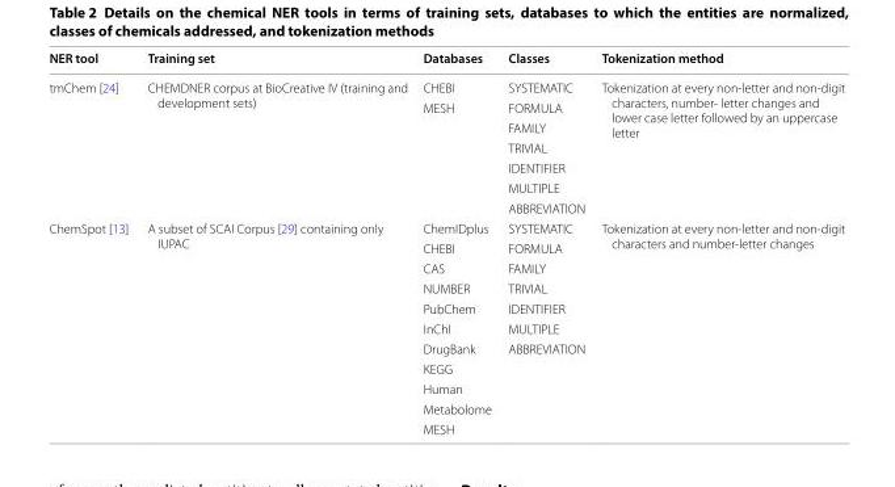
<table><thead><tr><td>NER tool</td><td>Training set</td><td>Databases</td><td>Classes</td><td>Tokenization method</td></tr></thead><tbody><tr><td rowspan="7">tmChem [24]</td><td rowspan="7">CHEMDNER corpus at BioCreative IV (training and development sets)</td><td>CHEBI</td><td>SYSTEMATIC</td><td rowspan="7">Tokenization at every non-letter and non-digit characters, number- letter changes and lower case letter followed by an uppercase letter</td></tr><tr><td>MESH</td><td>FORMULA</td></tr><tr><td></td><td>FAMILY</td></tr><tr><td></td><td>TRIVIAL</td></tr><tr><td></td><td>IDENTIFIER</td></tr><tr><td></td><td>MULTIPLE</td></tr><tr><td></td><td>ABBREVIATION</td></tr><tr><td rowspan="11">ChemSpot [13]</td><td rowspan="11">A subset of SCAI Corpus [29] containing only IUPAC</td><td>ChemIDplus</td><td>SYSTEMATIC</td><td rowspan="11">Tokenization at every non-letter and non-digit characters and number-letter changes</td></tr><tr><td>CHEBI</td><td>FORMULA</td></tr><tr><td>CAS</td><td>FAMILY</td></tr><tr><td>NUMBER</td><td>TRIVIAL</td></tr><tr><td>PubChem</td><td>IDENTIFIER</td></tr><tr><td>InChI</td><td>MULTIPLE</td></tr><tr><td>DrugBank</td><td>ABBREVIATION</td></tr><tr><td>KEGG</td><td></td></tr><tr><td>Human</td><td></td></tr><tr><td>Metabolome</td><td></td></tr><tr><td>MESH</td><td></td></tr></tbody></table>